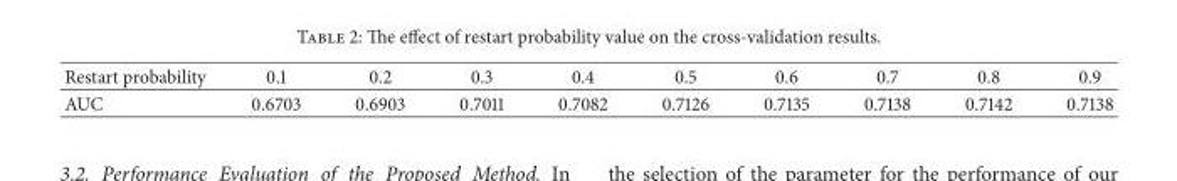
<table><thead><tr><td>Restart probability</td><td>0.1</td><td>0.2</td><td>0.3</td><td>0.4</td><td>0.5</td><td>0.6</td><td>0.7</td><td>0.8</td><td>0.9</td></tr></thead><tbody><tr><td>AUC</td><td>0.6703</td><td>0.6903</td><td>0.7011</td><td>0.7082</td><td>0.7126</td><td>0.7135</td><td>0.7138</td><td>0.7142</td><td>0.7138</td></tr></tbody></table>